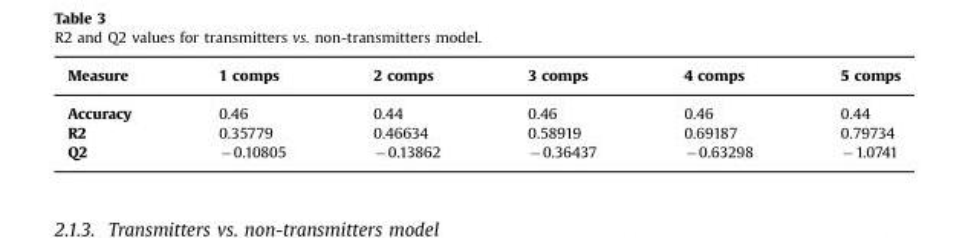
<table><thead><tr><td>Measure</td><td>1 comps</td><td>2 comps</td><td>3 comps</td><td>4 comps</td><td>5 comps</td></tr></thead><tbody><tr><td>Accuracy</td><td>0.46</td><td>0.44</td><td>0.46</td><td>0.46</td><td>0.44</td></tr><tr><td>R2</td><td>0.35779</td><td>0.46634</td><td>0.58919</td><td>0.69187</td><td>0.79734</td></tr><tr><td>Q2</td><td>−0.10805</td><td>−0.13862</td><td>−0.36437</td><td>−0.63298</td><td>−1.0741</td></tr></tbody></table>